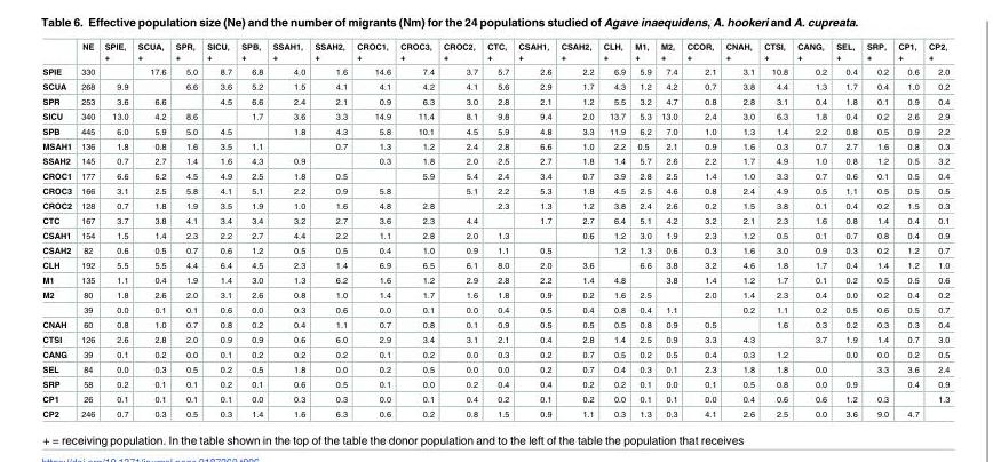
<table><thead><tr><td></td><td>NE</td><td>SPIE, +</td><td>SCUA, +</td><td>SPR, +</td><td>SICU, +</td><td>SPB, +</td><td>SSAH1, +</td><td>SSAH2, +</td><td>CROC1, +</td><td>CROC3, +</td><td>CROC2, +</td><td>CTC, +</td><td>CSAH1, +</td><td>CSAH2, +</td><td>CLH, +</td><td>M1, +</td><td>M2, +</td><td>CCOR, +</td><td>CNAH, +</td><td>CTSI, +</td><td>CANG, +</td><td>SEL, +</td><td>SRP, +</td><td>CP1, +</td><td>CP2, +</td></tr></thead><tbody><tr><td>SPIE</td><td>330</td><td></td><td>17.6</td><td>5.0</td><td>8.7</td><td>6.8</td><td>4.0</td><td>1.6</td><td>14.6</td><td>7.4</td><td>3.7</td><td>5.7</td><td>2.6</td><td>2.2</td><td>6.9</td><td>5.9</td><td>7.4</td><td>2.1</td><td>3.1</td><td>10.8</td><td>0.2</td><td>0.4</td><td>0.2</td><td>0.6</td><td>2.0</td></tr><tr><td>SCUA</td><td>268</td><td>9.9</td><td></td><td>6.6</td><td>3.6</td><td>5.2</td><td>1.5</td><td>4.1</td><td>4.1</td><td>4.2</td><td>4.1</td><td>5.6</td><td>2.9</td><td>1.7</td><td>4.3</td><td>1.2</td><td>4.2</td><td>0.7</td><td>3.8</td><td>4.4</td><td>1.3</td><td>1.7</td><td>0.4</td><td>1.0</td><td>0.2</td></tr><tr><td>SPR</td><td>253</td><td>3.6</td><td>6.6</td><td></td><td>4.5</td><td>6.6</td><td>2.4</td><td>2.1</td><td>0.9</td><td>6.3</td><td>3.0</td><td>2.8</td><td>2.1</td><td>1.2</td><td>5.5</td><td>3.2</td><td>4.7</td><td>0.8</td><td>2.8</td><td>3.1</td><td>0.4</td><td>1.8</td><td>0.1</td><td>0.9</td><td>0.4</td></tr><tr><td>SICU</td><td>340</td><td>13.0</td><td>4.2</td><td>8.6</td><td></td><td>1.7</td><td>3.6</td><td>3.3</td><td>14.9</td><td>11.4</td><td>8.1</td><td>9.8</td><td>9.4</td><td>2.0</td><td>13.7</td><td>5.3</td><td>13.0</td><td>2.4</td><td>3.0</td><td>6.3</td><td>1.8</td><td>0.4</td><td>0.2</td><td>2.6</td><td>2.9</td></tr><tr><td>SPB</td><td>445</td><td>6.0</td><td>5.9</td><td>5.0</td><td>4.5</td><td></td><td>1.8</td><td>4.3</td><td>5.8</td><td>10.1</td><td>4.5</td><td>5.9</td><td>4.8</td><td>3.3</td><td>11.9</td><td>6.2</td><td>7.0</td><td>1.0</td><td>1.3</td><td>1.4</td><td>2.2</td><td>0.8</td><td>0.5</td><td>0.9</td><td>2.2</td></tr><tr><td>MSAH1</td><td>136</td><td>1.8</td><td>0.8</td><td>1.6</td><td>3.5</td><td>1.1</td><td></td><td>0.7</td><td>1.3</td><td>1.2</td><td>2.4</td><td>2.8</td><td>6.6</td><td>1.0</td><td>2.2</td><td>0.5</td><td>2.1</td><td>0.9</td><td>1.6</td><td>0.3</td><td>0.7</td><td>2.7</td><td>1.6</td><td>0.8</td><td>0.3</td></tr><tr><td>SSAH2</td><td>145</td><td>0.7</td><td>2.7</td><td>1.4</td><td>1.6</td><td>4.3</td><td>0.9</td><td></td><td>0.3</td><td>1.8</td><td>2.0</td><td>2.5</td><td>2.7</td><td>1.8</td><td>1.4</td><td>5.7</td><td>2.6</td><td>2.2</td><td>1.7</td><td>4.9</td><td>1.0</td><td>0.8</td><td>1.2</td><td>0.5</td><td>3.2</td></tr><tr><td>CROC1</td><td>177</td><td>6.6</td><td>6.2</td><td>4.5</td><td>4.9</td><td>2.5</td><td>1.8</td><td>0.5</td><td></td><td>5.9</td><td>5.4</td><td>2.4</td><td>3.4</td><td>0.7</td><td>3.9</td><td>2.8</td><td>2.5</td><td>1.4</td><td>1.0</td><td>3.3</td><td>0.7</td><td>0.6</td><td>0.1</td><td>0.5</td><td>0.4</td></tr><tr><td>CROC3</td><td>166</td><td>3.1</td><td>2.5</td><td>5.8</td><td>4.1</td><td>5.1</td><td>2.2</td><td>0.9</td><td>5.8</td><td></td><td>5.1</td><td>2.2</td><td>5.3</td><td>1.8</td><td>4.5</td><td>2.5</td><td>4.6</td><td>0.8</td><td>2.4</td><td>4.9</td><td>0.5</td><td>1.1</td><td>0.5</td><td>0.5</td><td>0.5</td></tr><tr><td>CROC2</td><td>128</td><td>0.7</td><td>1.8</td><td>1.9</td><td>3.5</td><td>1.9</td><td>1.0</td><td>1.6</td><td>4.8</td><td>2.8</td><td></td><td>2.3</td><td>1.3</td><td>1.2</td><td>3.8</td><td>2.4</td><td>2.6</td><td>0.2</td><td>1.5</td><td>3.8</td><td>0.1</td><td>0.4</td><td>0.2</td><td>1.5</td><td>0.3</td></tr><tr><td>CTC</td><td>167</td><td>3.7</td><td>3.8</td><td>4.1</td><td>3.4</td><td>3.4</td><td>3.2</td><td>2.7</td><td>3.6</td><td>2.3</td><td>4.4</td><td></td><td>1.7</td><td>2.7</td><td>6.4</td><td>5.1</td><td>4.2</td><td>3.2</td><td>2.1</td><td>2.3</td><td>1.6</td><td>0.8</td><td>1.4</td><td>0.4</td><td>0.1</td></tr><tr><td>CSAH1</td><td>154</td><td>1.5</td><td>1.4</td><td>2.3</td><td>2.2</td><td>2.7</td><td>4.4</td><td>2.2</td><td>1.1</td><td>2.8</td><td>2.0</td><td>1.3</td><td></td><td>0.6</td><td>1.2</td><td>3.0</td><td>1.9</td><td>2.3</td><td>1.2</td><td>0.5</td><td>0.1</td><td>0.7</td><td>0.8</td><td>0.4</td><td>0.9</td></tr><tr><td>CSAH2</td><td>82</td><td>0.6</td><td>0.5</td><td>0.7</td><td>0.6</td><td>1.2</td><td>0.5</td><td>0.5</td><td>0.4</td><td>1.0</td><td>0.9</td><td>1.1</td><td>0.5</td><td></td><td>1.2</td><td>1.3</td><td>0.6</td><td>0.3</td><td>1.6</td><td>3.0</td><td>0.9</td><td>0.3</td><td>0.2</td><td>1.2</td><td>0.7</td></tr><tr><td>CLH</td><td>192</td><td>5.5</td><td>5.5</td><td>4.4</td><td>6.4</td><td>4.5</td><td>2.3</td><td>1.4</td><td>6.9</td><td>6.5</td><td>6.1</td><td>8.0</td><td>2.0</td><td>3.6</td><td></td><td>6.6</td><td>3.8</td><td>3.2</td><td>4.6</td><td>1.8</td><td>1.7</td><td>0.4</td><td>1.4</td><td>1.2</td><td>1.0</td></tr><tr><td>M1</td><td>135</td><td>1.1</td><td>0.4</td><td>1.9</td><td>1.4</td><td>3.0</td><td>1.3</td><td>6.2</td><td>1.6</td><td>1.2</td><td>2.9</td><td>2.8</td><td>2.2</td><td>1.4</td><td>4.8</td><td></td><td>3.8</td><td>1.4</td><td>1.2</td><td>1.7</td><td>0.1</td><td>0.2</td><td>0.5</td><td>0.5</td><td>0.6</td></tr><tr><td rowspan="2">M2</td><td>80</td><td>1.8</td><td>2.6</td><td>2.0</td><td>3.1</td><td>2.6</td><td>0.8</td><td>1.0</td><td>1.4</td><td>1.7</td><td>1.6</td><td>1.8</td><td>0.9</td><td>0.2</td><td>1.6</td><td>2.5</td><td></td><td>2.0</td><td>1.4</td><td>2.3</td><td>0.4</td><td>0.0</td><td>0.2</td><td>0.4</td><td>0.2</td></tr><tr><td>39</td><td>0.0</td><td>0.1</td><td>0.1</td><td>0.6</td><td>0.0</td><td>0.3</td><td>0.6</td><td>0.0</td><td>0.1</td><td>0.0</td><td>0.4</td><td>0.5</td><td>0.4</td><td>0.8</td><td>0.4</td><td>1.1</td><td></td><td>0.2</td><td>1.1</td><td>0.2</td><td>0.5</td><td>0.6</td><td>0.5</td><td>0.7</td></tr><tr><td>CNAH</td><td>60</td><td>0.8</td><td>1.0</td><td>0.7</td><td>0.8</td><td>0.2</td><td>0.4</td><td>1.1</td><td>0.7</td><td>0.8</td><td>0.1</td><td>0.9</td><td>0.5</td><td>0.5</td><td>0.5</td><td>0.8</td><td>0.9</td><td>0.5</td><td></td><td>1.6</td><td>0.3</td><td>0.2</td><td>0.3</td><td>0.3</td><td>0.4</td></tr><tr><td>CTSI</td><td>126</td><td>2.6</td><td>2.8</td><td>2.0</td><td>0.9</td><td>0.9</td><td>0.6</td><td>6.0</td><td>2.9</td><td>3.4</td><td>3.1</td><td>2.1</td><td>0.4</td><td>2.8</td><td>1.4</td><td>2.5</td><td>0.9</td><td>3.3</td><td>4.3</td><td></td><td>3.7</td><td>1.9</td><td>1.4</td><td>0.7</td><td>3.0</td></tr><tr><td>CANG</td><td>39</td><td>0.1</td><td>0.2</td><td>0.0</td><td>0.1</td><td>0.2</td><td>0.2</td><td>0.2</td><td>0.1</td><td>0.2</td><td>0.0</td><td>0.3</td><td>0.2</td><td>0.7</td><td>0.5</td><td>0.2</td><td>0.5</td><td>0.4</td><td>0.3</td><td>1.2</td><td></td><td>0.0</td><td>0.0</td><td>0.2</td><td>0.5</td></tr><tr><td>SEL</td><td>84</td><td>0.0</td><td>0.3</td><td>0.5</td><td>0.2</td><td>0.5</td><td>1.8</td><td>0.0</td><td>0.2</td><td>0.5</td><td>0.0</td><td>0.0</td><td>0.2</td><td>0.7</td><td>0.4</td><td>0.3</td><td>0.1</td><td>2.3</td><td>1.8</td><td>1.8</td><td>0.0</td><td></td><td>3.3</td><td>3.6</td><td>2.4</td></tr><tr><td>SRP</td><td>58</td><td>0.2</td><td>0.1</td><td>0.1</td><td>0.2</td><td>0.1</td><td>0.6</td><td>0.5</td><td>0.1</td><td>0.0</td><td>0.2</td><td>0.4</td><td>0.4</td><td>0.2</td><td>0.2</td><td>0.1</td><td>0.0</td><td>0.1</td><td>0.5</td><td>0.8</td><td>0.0</td><td>0.9</td><td></td><td>0.4</td><td>0.9</td></tr><tr><td>CP1</td><td>26</td><td>0.1</td><td>0.1</td><td>0.1</td><td>0.1</td><td>0.0</td><td>0.3</td><td>0.3</td><td>0.0</td><td>0.1</td><td>0.4</td><td>0.2</td><td>0.1</td><td>0.2</td><td>0.0</td><td>0.1</td><td>0.1</td><td>0.0</td><td>0.4</td><td>0.6</td><td>0.6</td><td>1.2</td><td>0.3</td><td></td><td>1.3</td></tr><tr><td>CP2</td><td>246</td><td>0.7</td><td>0.3</td><td>0.5</td><td>0.3</td><td>1.4</td><td>1.6</td><td>6.3</td><td>0.6</td><td>0.2</td><td>0.8</td><td>1.5</td><td>0.9</td><td>1.1</td><td>0.3</td><td>1.3</td><td>0.3</td><td>4.1</td><td>2.6</td><td>2.5</td><td>0.0</td><td>3.6</td><td>9.0</td><td>4.7</td><td></td></tr></tbody></table>